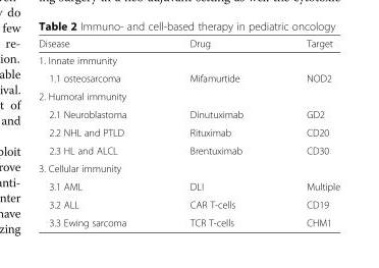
<table><thead><tr><td>Disease</td><td>Drug</td><td>Target</td></tr></thead><tbody><tr><td colspan="3">1. Innate immunity</td></tr><tr><td>1.1 osteosarcoma</td><td>Mifamurtide</td><td>NOD2</td></tr><tr><td colspan="3">2. Humoral immunity</td></tr><tr><td>2.1 Neuroblastoma</td><td>Dinutuximab</td><td>GD2</td></tr><tr><td>2.2 NHL and PTLD</td><td>Rituximab</td><td>CD20</td></tr><tr><td>2.3 HL and ALCL</td><td>Brentuximab</td><td>CD30</td></tr><tr><td colspan="3">3. Cellular immunity</td></tr><tr><td>3.1 AML</td><td>DLI</td><td>Multiple</td></tr><tr><td>3.2 ALL</td><td>CAR T-cells</td><td>CD19</td></tr><tr><td>3.3 Ewing sarcoma</td><td>TCR T-cells</td><td>CHM1</td></tr></tbody></table>